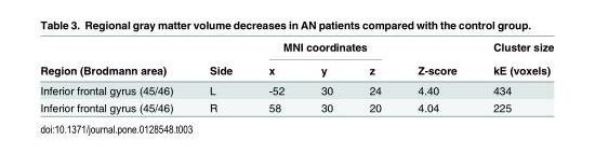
<table><thead><tr><td rowspan="2">Region (Brodmann area)</td><td rowspan="2">Side</td><td colspan="3">MNI coordinates</td><td rowspan="2">Z-score</td><td rowspan="2">Cluster size kE (voxels)</td></tr><tr><td>x</td><td>y</td><td>z</td></tr></thead><tbody><tr><td>Inferior frontal gyrus (45/46)</td><td>L</td><td>-52</td><td>30</td><td>24</td><td>4.40</td><td>434</td></tr><tr><td>Inferior frontal gyrus (45/46)</td><td>R</td><td>58</td><td>30</td><td>20</td><td>4.04</td><td>225</td></tr></tbody></table>